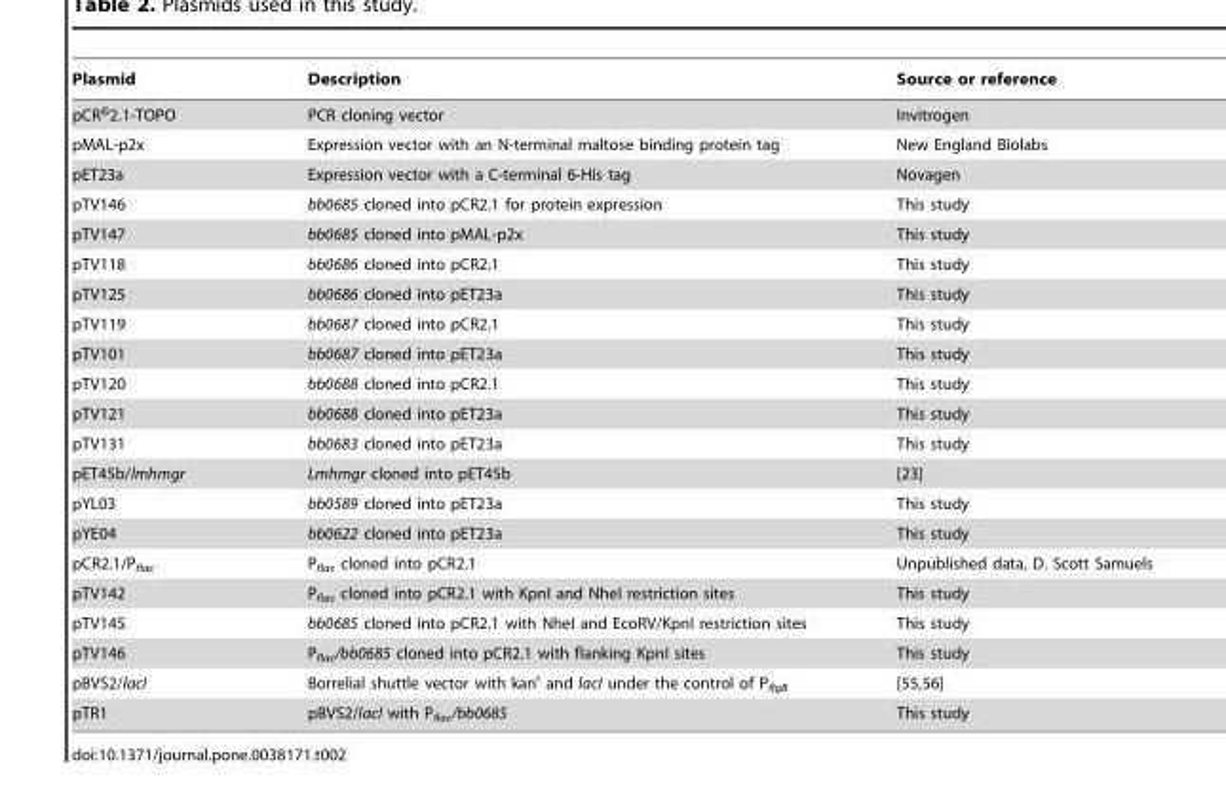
<table><thead><tr><td>Plasmid</td><td>Description</td><td>Source or reference</td></tr></thead><tbody><tr><td>pCR®2.1-TOPO</td><td>PCR cloning vector</td><td>Invitrogen</td></tr><tr><td>pMAL-p2x</td><td>Expression vector with an N-terminal maltose binding protein tag</td><td>New England Biolabs</td></tr><tr><td>pET23a</td><td>Expression vector with a C-terminal 6-His tag</td><td>Novagen</td></tr><tr><td>pTV146</td><td>bb0685 cloned into pCR2.1 for protein expression</td><td>This study</td></tr><tr><td>pTV147</td><td>bb0685 cloned into pMAL-p2x</td><td>This study</td></tr><tr><td>pTV118</td><td>bb0686 cloned into pCR2.1</td><td>This study</td></tr><tr><td>pTV125</td><td>bb0686 cloned into pET23a</td><td>This study</td></tr><tr><td>pTV119</td><td>bb0687 cloned into pCR2.1</td><td>This study</td></tr><tr><td>pTV101</td><td>bb0687 cloned into pET23a</td><td>This study</td></tr><tr><td>pTV120</td><td>bb0688 cloned into pCR2.1</td><td>This study</td></tr><tr><td>pTV121</td><td>bb0688 cloned into pET23a</td><td>This study</td></tr><tr><td>pTV131</td><td>bb0683 cloned into pET23a</td><td>This study</td></tr><tr><td>pET45b/lmhmgr</td><td>Lmhmgr cloned into pET45b</td><td>[23]</td></tr><tr><td>pYL03</td><td>bb0589 cloned into pET23a</td><td>This study</td></tr><tr><td>pYE04</td><td>bb0622 cloned into pET23a</td><td>This study</td></tr><tr><td>pCR2.1/P<sub>flac</sub></td><td>P<sub>flac</sub> cloned into pCR2.1</td><td>Unpublished data, D. Scott Samuels</td></tr><tr><td>pTV142</td><td>P<sub>flac</sub> cloned into pCR2.1 with KpnI and NheI restriction sites</td><td>This study</td></tr><tr><td>pTV145</td><td>bb0685 cloned into pCR2.1 with NheI and EcoRV/KpnI restriction sites</td><td>This study</td></tr><tr><td>pTV146</td><td>P<sub>flac</sub>/bb0685 cloned into pCR2.1 with flanking KpnI sites</td><td>This study</td></tr><tr><td>pBVS2/lacI</td><td>Borrelial shuttle vector with kan<sup>r</sup> and lacI under the control of P<sub>flgB</sub></td><td>[55,56]</td></tr><tr><td>pTR1</td><td>pBVS2/lacI with P<sub>flac</sub>/bb0685</td><td>This study</td></tr></tbody></table>